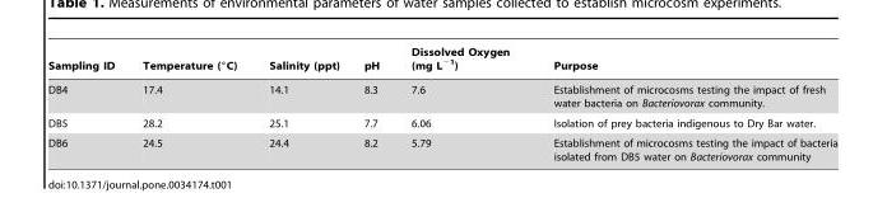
<table><thead><tr><td>Sampling ID</td><td>Temperature (°C)</td><td>Salinity (ppt)</td><td>pH</td><td>Dissolved Oxygen (mg L<sup>−1</sup>)</td><td>Purpose</td></tr></thead><tbody><tr><td>DB4</td><td>17.4</td><td>14.1</td><td>8.3</td><td>7.6</td><td>Establishment of microcosms testing the impact of fresh water bacteria on Bacteriovorax community.</td></tr><tr><td>DB5</td><td>28.2</td><td>25.1</td><td>7.7</td><td>6.06</td><td>Isolation of prey bacteria indigenous to Dry Bar water.</td></tr><tr><td>DB6</td><td>24.5</td><td>24.4</td><td>8.2</td><td>5.79</td><td>Establishment of microcosms testing the impact of bacteria isolated from DB5 water on Bacteriovorax community</td></tr></tbody></table>